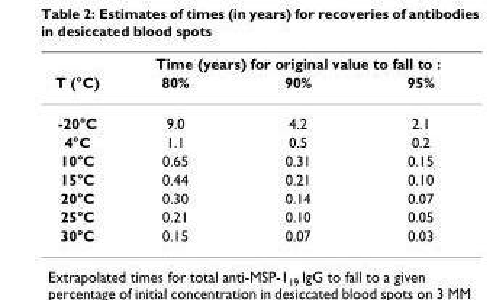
<table><thead><tr><td rowspan="2">T (°C)</td><td colspan="3">Time (years) for original value to fall to :</td></tr><tr><td>80%</td><td>90%</td><td>95%</td></tr></thead><tbody><tr><td>-20°C</td><td>9.0</td><td>4.2</td><td>2.1</td></tr><tr><td>4°C</td><td>1.1</td><td>0.5</td><td>0.2</td></tr><tr><td>10°C</td><td>0.65</td><td>0.31</td><td>0.15</td></tr><tr><td>15°C</td><td>0.44</td><td>0.21</td><td>0.10</td></tr><tr><td>20°C</td><td>0.30</td><td>0.14</td><td>0.07</td></tr><tr><td>25°C</td><td>0.21</td><td>0.10</td><td>0.05</td></tr><tr><td>30°C</td><td>0.15</td><td>0.07</td><td>0.03</td></tr></tbody></table>